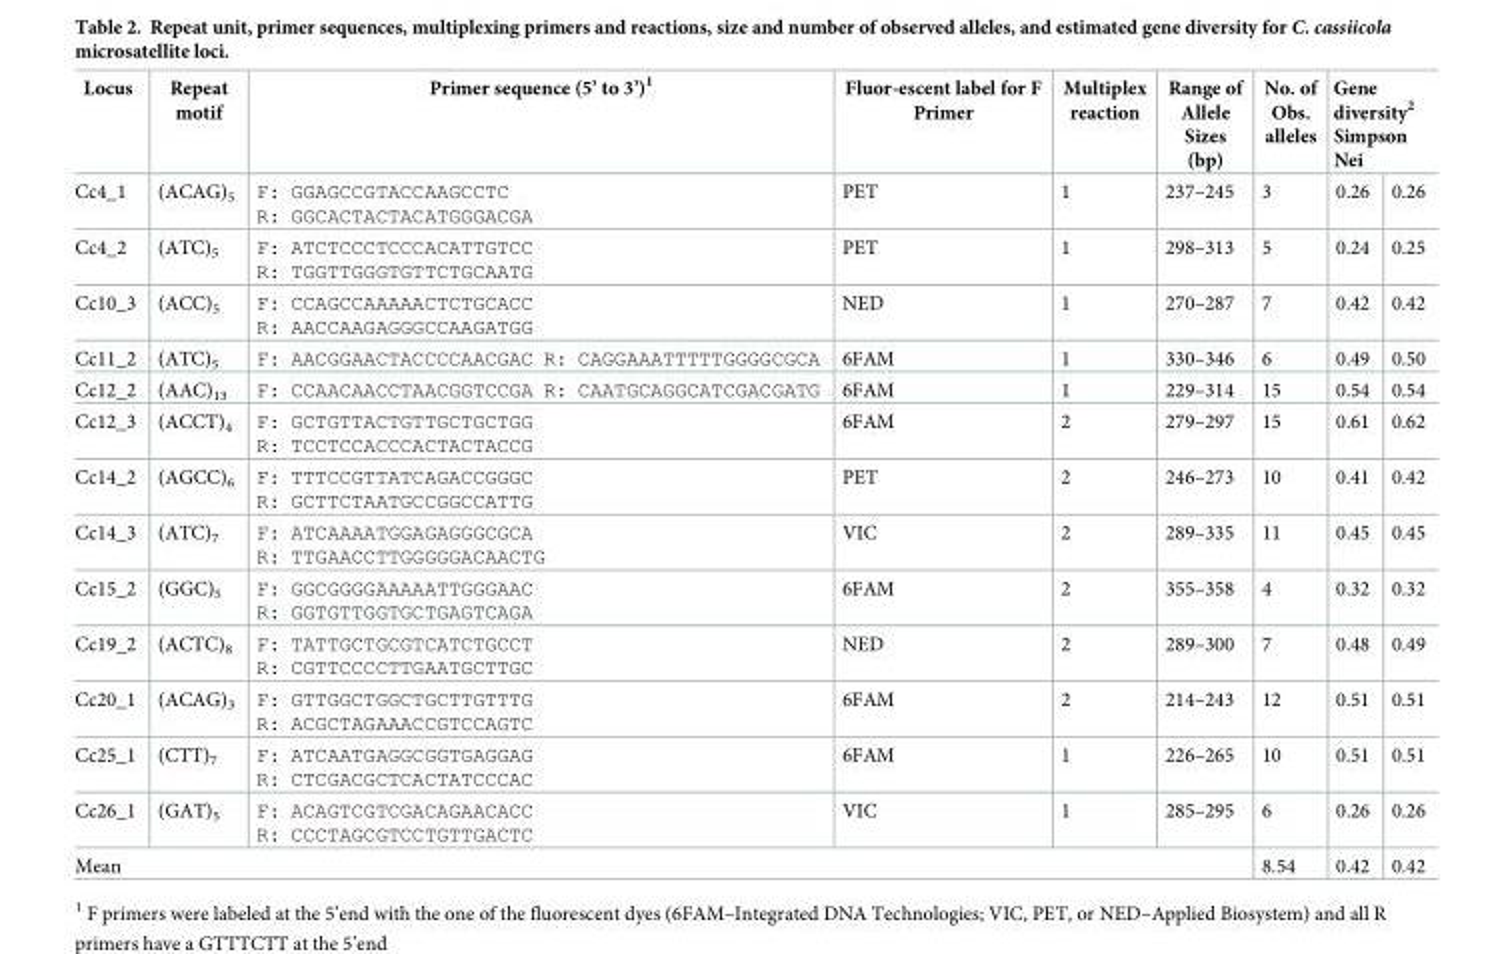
<table><thead><tr><td rowspan="2">Locus Cc4_1</td><td rowspan="2">Repeat motif (ACAG)<sub>5</sub></td><td rowspan="2">Primer sequence (5’ to 3’)<sup>1</sup> F: GGAGCCGTACCAAGCCTC R: GGCACTACTACATGGGACGA</td><td rowspan="2">Fluor-escent label for F Primer PET</td><td rowspan="2">Multiplex reaction 1</td><td rowspan="2">Range of Allele Sizes (bp) 237–245</td><td rowspan="2">No. of Obs. alleles 3</td><td colspan="2">Gene diversity<sup>2</sup> Simpson Nei</td></tr><tr><td>0.26</td><td>0.26</td></tr></thead><tbody><tr><td>Cc4_2</td><td>(ATC)<sub>5</sub></td><td>F: ATCTCCCTCCCACATTGTCC R: TGGTTGGGTGTTCTGCAATG</td><td>PET</td><td>1</td><td>298–313</td><td>5</td><td>0.24</td><td>0.25</td></tr><tr><td>Cc10_3</td><td>(ACC)<sub>5</sub></td><td>F: CCAGCCAAAAACTCTGCACC R: AACCAAGAGGGCCAAGATGG</td><td>NED</td><td>1</td><td>270–287</td><td>7</td><td>0.42</td><td>0.42</td></tr><tr><td>Cc11_2</td><td>(ATC)<sub>5</sub></td><td>F: AACGGAACTACCCCAACGAC R: CAGGAAATTTTTGGGGCGCA</td><td>6FAM</td><td>1</td><td>330–346</td><td>6</td><td>0.49</td><td>0.50</td></tr><tr><td>Cc12_2</td><td>(AAC)<sub>13</sub></td><td>F: CCAACAACCTAACGGTCCGA R: CAATGCAGGCATCGACGATG</td><td>6FAM</td><td>1</td><td>229–314</td><td>15</td><td>0.54</td><td>0.54</td></tr><tr><td>Cc12_3</td><td>(ACCT)<sub>4</sub></td><td>F: GCTGTTACTGTTGCTGCTGG R: TCCTCCACCCACTACTACCG</td><td>6FAM</td><td>2</td><td>279–297</td><td>15</td><td>0.61</td><td>0.62</td></tr><tr><td>Cc14_2</td><td>(AGCC)<sub>6</sub></td><td>F: TTTCCGTTATCAGACCGGGC R: GCTTCTAATGCCGGCCATTG</td><td>PET</td><td>2</td><td>246–273</td><td>10</td><td>0.41</td><td>0.42</td></tr><tr><td>Cc14_3</td><td>(ATC)<sub>7</sub></td><td>F: ATCAAAATGGAGAGGGCGCA R: TTGAACCTTGGGGGACAACTG</td><td>VIC</td><td>2</td><td>289–335</td><td>11</td><td>0.45</td><td>0.45</td></tr><tr><td>Cc15_2</td><td>(GGC)<sub>5</sub></td><td>F: GGCGGGGAAAAATTGGGAAC R: GGTGTTGGTGCTGAGTCAGA</td><td>6FAM</td><td>2</td><td>355–358</td><td>4</td><td>0.32</td><td>0.32</td></tr><tr><td>Cc19_2</td><td>(ACTC)<sub>8</sub></td><td>F: TATTGCTGCGTCATCTGCCT R: CGTTCCCCTTGAATGCTTGC</td><td>NED</td><td>2</td><td>289–300</td><td>7</td><td>0.48</td><td>0.49</td></tr><tr><td>Cc20_1</td><td>(ACAG)<sub>3</sub></td><td>F: GTTGGCTGGCTGCTTGTTTG R: ACGCTAGAAACCGTCCAGTC</td><td>6FAM</td><td>2</td><td>214–243</td><td>12</td><td>0.51</td><td>0.51</td></tr><tr><td>Cc25_1</td><td>(CTT)<sub>7</sub></td><td>F: ATCAATGAGGCGGTGAGGAG R: CTCGACGCTCACTATCCCAC</td><td>6FAM</td><td>1</td><td>226–265</td><td>10</td><td>0.51</td><td>0.51</td></tr><tr><td>Cc26_1</td><td>(GAT)<sub>5</sub></td><td>F: ACAGTCGTCGACAGAACACC R: CCCTAGCGTCCTGTTGACTC</td><td>VIC</td><td>1</td><td>285–295</td><td>6</td><td>0.26</td><td>0.26</td></tr><tr><td colspan="6">Mean</td><td>8.54</td><td>0.42</td><td>0.42</td></tr></tbody></table>